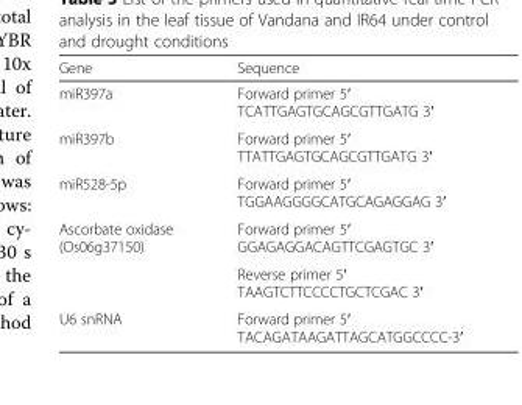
<table><thead><tr><td>Gene</td><td>Sequence</td></tr></thead><tbody><tr><td>miR397a</td><td>Forward primer 5′ TCATTGAGTGCAGCGTTGATG 3′</td></tr><tr><td>miR397b</td><td>Forward primer 5′ TTATTGAGTGCAGCGTTGATG 3′</td></tr><tr><td>miR528-5p</td><td>Forward primer 5′ TGGAAGGGGCATGCAGAGGAG 3′</td></tr><tr><td rowspan="2">Ascorbate oxidase (Os06g37150)</td><td>Forward primer 5′ GGAGAGGACAGTTCGAGTGC 3′</td></tr><tr><td>Reverse primer 5′ TAAGTCTTCCCCTGCTCGAC 3′</td></tr><tr><td>U6 snRNA</td><td>Forward primer 5′ TACAGATAAGATTAGCATGGCCCC-3′</td></tr></tbody></table>